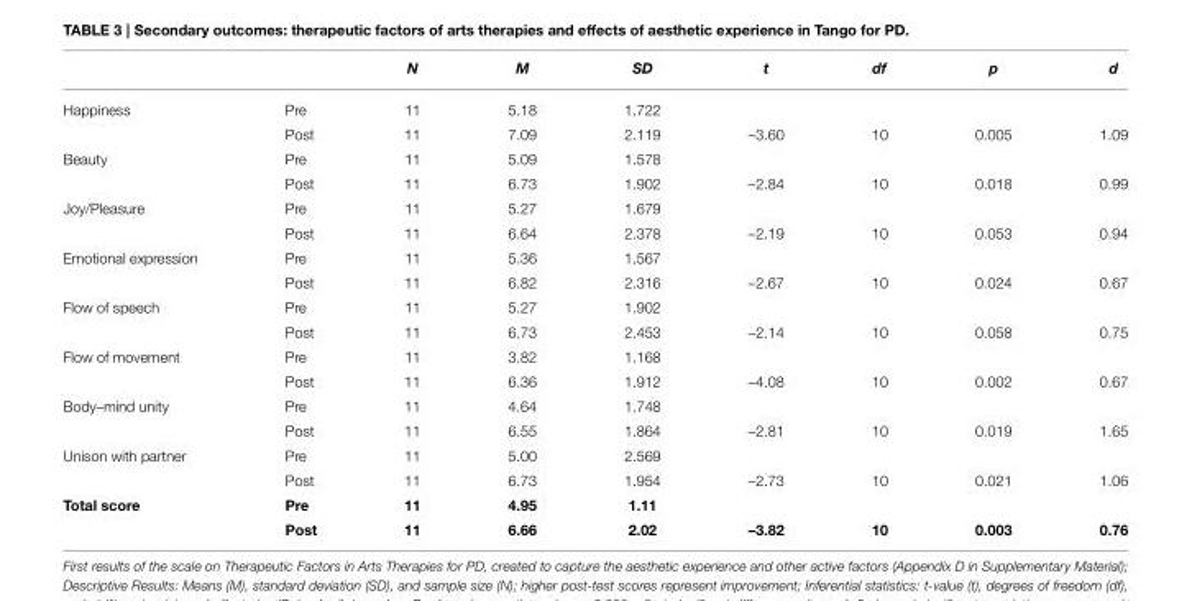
<table><thead><tr><td></td><td></td><td>N</td><td>M</td><td>SD</td><td>t</td><td>df</td><td>p</td><td>d</td></tr></thead><tbody><tr><td rowspan="2">Happiness</td><td>Pre</td><td>11</td><td>5.18</td><td>1.722</td><td></td><td></td><td></td><td></td></tr><tr><td>Post</td><td>11</td><td>7.09</td><td>2.119</td><td>–3.60</td><td>10</td><td>0.005</td><td>1.09</td></tr><tr><td rowspan="2">Beauty</td><td>Pre</td><td>11</td><td>5.09</td><td>1.578</td><td></td><td></td><td></td><td></td></tr><tr><td>Post</td><td>11</td><td>6.73</td><td>1.902</td><td>–2.84</td><td>10</td><td>0.018</td><td>0.99</td></tr><tr><td rowspan="2">Joy/Pleasure</td><td>Pre</td><td>11</td><td>5.27</td><td>1.679</td><td></td><td></td><td></td><td></td></tr><tr><td>Post</td><td>11</td><td>6.64</td><td>2.378</td><td>–2.19</td><td>10</td><td>0.053</td><td>0.94</td></tr><tr><td rowspan="2">Emotional expression</td><td>Pre</td><td>11</td><td>5.36</td><td>1.567</td><td></td><td></td><td></td><td></td></tr><tr><td>Post</td><td>11</td><td>6.82</td><td>2.316</td><td>–2.67</td><td>10</td><td>0.024</td><td>0.67</td></tr><tr><td rowspan="2">Flow of speech</td><td>Pre</td><td>11</td><td>5.27</td><td>1.902</td><td></td><td></td><td></td><td></td></tr><tr><td>Post</td><td>11</td><td>6.73</td><td>2.453</td><td>–2.14</td><td>10</td><td>0.058</td><td>0.75</td></tr><tr><td rowspan="2">Flow of movement</td><td>Pre</td><td>11</td><td>3.82</td><td>1.168</td><td colspan="4"></td></tr><tr><td>Post</td><td>11</td><td>6.36</td><td>1.912</td><td>–4.08</td><td>10</td><td>0.002</td><td>0.67</td></tr><tr><td rowspan="2">Body–mind unity</td><td>Pre</td><td>11</td><td>4.64</td><td>1.748</td><td></td><td></td><td></td><td></td></tr><tr><td>Post</td><td>11</td><td>6.55</td><td>1.864</td><td>–2.81</td><td>10</td><td>0.019</td><td>1.65</td></tr><tr><td rowspan="2">Unison with partner</td><td>Pre</td><td>11</td><td>5.00</td><td>2.569</td><td></td><td></td><td></td><td></td></tr><tr><td>Post</td><td>11</td><td>6.73</td><td>1.954</td><td>–2.73</td><td>10</td><td>0.021</td><td>1.06</td></tr><tr><td rowspan="2">Total score</td><td>Pre</td><td>11</td><td>4.95</td><td>1.11</td><td></td><td></td><td></td><td></td></tr><tr><td>Post</td><td>11</td><td>6.66</td><td>2.02</td><td>–3.82</td><td>10</td><td>0.003</td><td>0.76</td></tr></tbody></table>